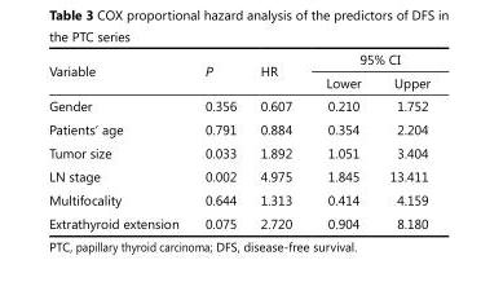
<table><thead><tr><td rowspan="2">Variable</td><td rowspan="2">P</td><td rowspan="2">HR</td><td colspan="2">95% CI</td></tr><tr><td>Lower</td><td>Upper</td></tr></thead><tbody><tr><td>Gender</td><td>0.356</td><td>0.607</td><td>0.210</td><td>1.752</td></tr><tr><td>Patients’ age</td><td>0.791</td><td>0.884</td><td>0.354</td><td>2.204</td></tr><tr><td>Tumor size</td><td>0.033</td><td>1.892</td><td>1.051</td><td>3.404</td></tr><tr><td>LN stage</td><td>0.002</td><td>4.975</td><td>1.845</td><td>13.411</td></tr><tr><td>Multifocality</td><td>0.644</td><td>1.313</td><td>0.414</td><td>4.159</td></tr><tr><td>Extrathyroid extension</td><td>0.075</td><td>2.720</td><td>0.904</td><td>8.180</td></tr></tbody></table>